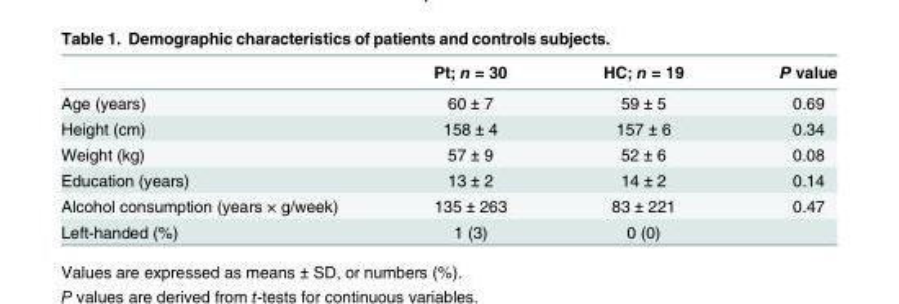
<table><thead><tr><td></td><td>Pt; n = 30</td><td>HC; n = 19</td><td>P value</td></tr></thead><tbody><tr><td>Age (years)</td><td>60 ± 7</td><td>59 ± 5</td><td>0.69</td></tr><tr><td>Height (cm)</td><td>158 ± 4</td><td>157 ± 6</td><td>0.34</td></tr><tr><td>Weight (kg)</td><td>57 ± 9</td><td>52 ± 6</td><td>0.08</td></tr><tr><td>Education (years)</td><td>13 ± 2</td><td>14 ± 2</td><td>0.14</td></tr><tr><td>Alcohol consumption (years × g/week)</td><td>135 ± 263</td><td>83 ± 221</td><td>0.47</td></tr><tr><td>Left-handed (%)</td><td>1 (3)</td><td>0 (0)</td><td></td></tr></tbody></table>